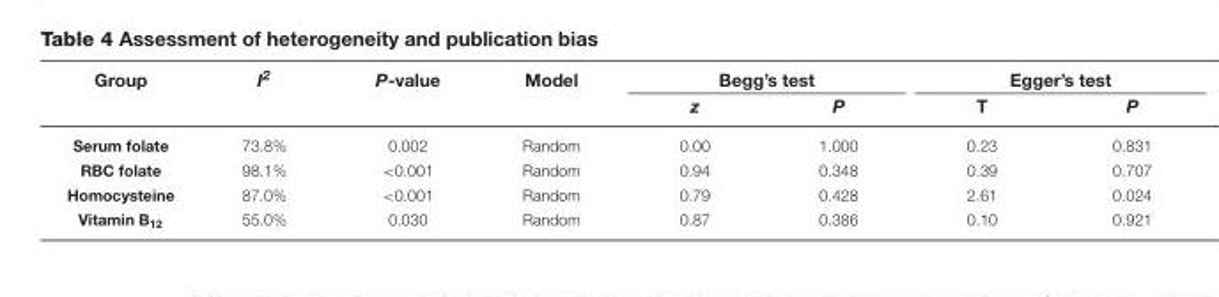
<table><thead><tr><td rowspan="2">Group</td><td rowspan="2">I<sup>2</sup></td><td rowspan="2">P-value</td><td rowspan="2">Model</td><td colspan="2">Begg’s test</td><td colspan="2">Egger’s test</td></tr><tr><td>z</td><td>P</td><td>T</td><td>P</td></tr></thead><tbody><tr><td>Serum folate</td><td>73.8%</td><td>0.002</td><td>Random</td><td>0.00</td><td>1.000</td><td>0.23</td><td>0.831</td></tr><tr><td>RBC folate</td><td>98.1%</td><td>&lt;0.001</td><td>Random</td><td>0.94</td><td>0.348</td><td>0.39</td><td>0.707</td></tr><tr><td>Homocysteine</td><td>87.0%</td><td>&lt;0.001</td><td>Random</td><td>0.79</td><td>0.428</td><td>2.61</td><td>0.024</td></tr><tr><td>Vitamin B<sub>12</sub></td><td>55.0%</td><td>0.030</td><td>Random</td><td>0.87</td><td>0.386</td><td>0.10</td><td>0.921</td></tr></tbody></table>